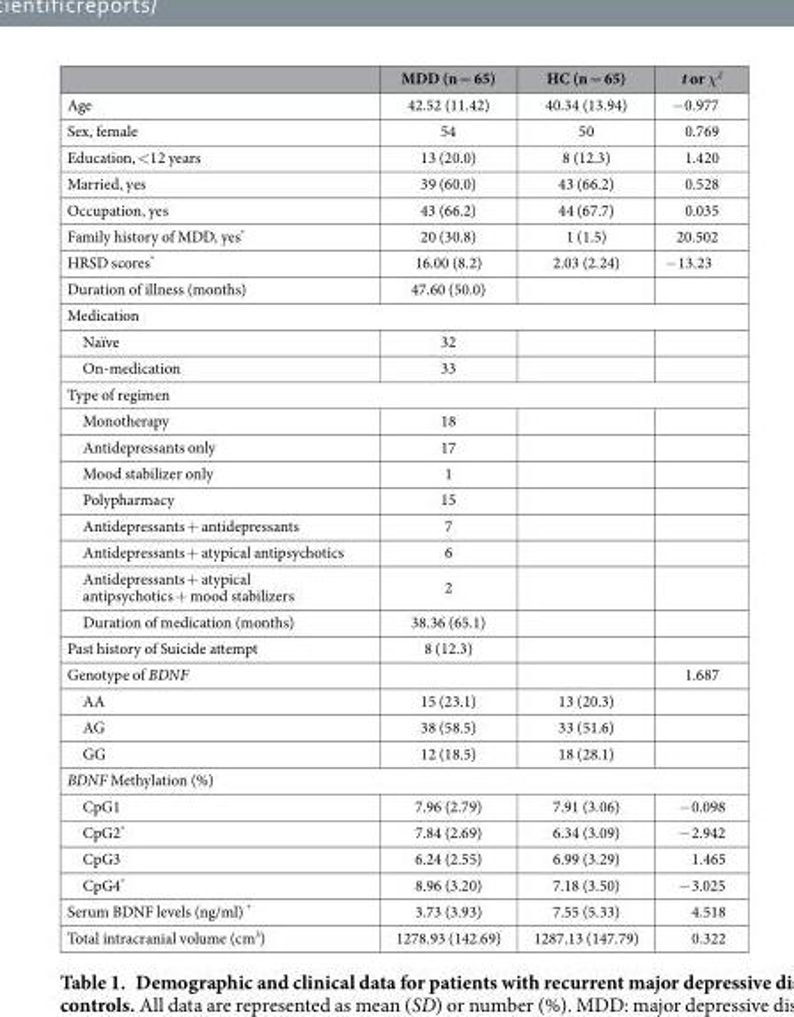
<table><thead><tr><td></td><td>MDD (n = 65)</td><td>HC (n = 65)</td><td>t or χ<sup>2</sup></td></tr></thead><tbody><tr><td>Age</td><td>42.52 (11.42)</td><td>40.34 (13.94)</td><td>− 0.977</td></tr><tr><td>Sex, female</td><td>54</td><td>50</td><td>0.769</td></tr><tr><td>Education, &lt;12 years</td><td>13 (20.0)</td><td>8 (12.3)</td><td>1.420</td></tr><tr><td>Married, yes</td><td>39 (60.0)</td><td>43 (66.2)</td><td>0.528</td></tr><tr><td>Occupation, yes</td><td>43 (66.2)</td><td>44 (67.7)</td><td>0.035</td></tr><tr><td>Family history of MDD, yes*</td><td>20 (30.8)</td><td>1 (1.5)</td><td>20.502</td></tr><tr><td>HRSD scores*</td><td>16.00 (8.2)</td><td>2.03 (2.24)</td><td>− 13.23</td></tr><tr><td>Duration of illness (months)</td><td>47.60 (50.0)</td><td></td><td></td></tr><tr><td colspan="4">Medication</td></tr><tr><td>Naïve</td><td>32</td><td></td><td></td></tr><tr><td>On-medication</td><td>33</td><td></td><td></td></tr><tr><td colspan="4">Type of regimen</td></tr><tr><td>Monotherapy</td><td>18</td><td></td><td></td></tr><tr><td>Antidepressants only</td><td>17</td><td></td><td></td></tr><tr><td>Mood stabilizer only</td><td>1</td><td></td><td></td></tr><tr><td>Polypharmacy</td><td>15</td><td></td><td></td></tr><tr><td>Antidepressants + antidepressants</td><td>7</td><td></td><td></td></tr><tr><td>Antidepressants + atypical antipsychotics</td><td>6</td><td></td><td></td></tr><tr><td>Antidepressants + atypical antipsychotics + mood stabilizers</td><td>2</td><td></td><td></td></tr><tr><td>Duration of medication (months)</td><td>38.36 (65.1)</td><td></td><td></td></tr><tr><td>Past history of Suicide attempt</td><td>8 (12.3)</td><td></td><td></td></tr><tr><td>Genotype of BDNF</td><td></td><td></td><td>1.687</td></tr><tr><td>AA</td><td>15 (23.1)</td><td>13 (20.3)</td><td></td></tr><tr><td>AG</td><td>38 (58.5)</td><td>33 (51.6)</td><td></td></tr><tr><td>GG</td><td>12 (18.5)</td><td>18 (28.1)</td><td></td></tr><tr><td colspan="4">BDNF Methylation (%)</td></tr><tr><td>CpG1</td><td>7.96 (2.79)</td><td>7.91 (3.06)</td><td>− 0.098</td></tr><tr><td>CpG2*</td><td>7.84 (2.69)</td><td>6.34 (3.09)</td><td>− 2.942</td></tr><tr><td>CpG3</td><td>6.24 (2.55)</td><td>6.99 (3.29)</td><td>1.465</td></tr><tr><td>CpG4*</td><td>8.96 (3.20)</td><td>7.18 (3.50)</td><td>− 3.025</td></tr><tr><td>Serum BDNF levels (ng/ml) *</td><td>3.73 (3.93)</td><td>7.55 (5.33)</td><td>4.518</td></tr><tr><td>Total intracranial volume (cm<sup>3</sup>)</td><td>1278.93 (142.69)</td><td>1287.13 (147.79)</td><td>0.322</td></tr></tbody></table>